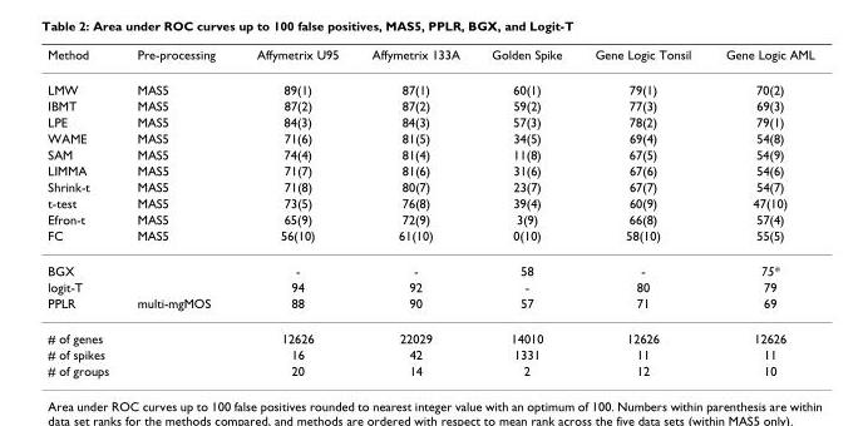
<table><thead><tr><td>Method</td><td>Pre-processing</td><td>Affymetrix U95</td><td>Affymetrix 133A</td><td>Golden Spike</td><td>Gene Logic Tonsil</td><td>Gene Logic AML</td></tr></thead><tbody><tr><td>LMW</td><td>MAS5</td><td>89(1)</td><td>87(1)</td><td>60(1)</td><td>79(1)</td><td>70(2)</td></tr><tr><td>IBMT</td><td>MAS5</td><td>87(2)</td><td>87(2)</td><td>59(2)</td><td>77(3)</td><td>69(3)</td></tr><tr><td>LPE</td><td>MAS5</td><td>84(3)</td><td>84(3)</td><td>57(3)</td><td>78(2)</td><td>79(1)</td></tr><tr><td>WAME</td><td>MAS5</td><td>71(6)</td><td>81(5)</td><td>34(5)</td><td>69(4)</td><td>54(8)</td></tr><tr><td>SAM</td><td>MAS5</td><td>74(4)</td><td>81(4)</td><td>11(8)</td><td>67(5)</td><td>54(9)</td></tr><tr><td>LIMMA</td><td>MAS5</td><td>71(7)</td><td>81(6)</td><td>31(6)</td><td>67(6)</td><td>54(6)</td></tr><tr><td>Shrink-t</td><td>MAS5</td><td>71(8)</td><td>80(7)</td><td>23(7)</td><td>67(7)</td><td>54(7)</td></tr><tr><td>t-test</td><td>MAS5</td><td>73(5)</td><td>76(8)</td><td>39(4)</td><td>60(9)</td><td>47(10)</td></tr><tr><td>Efron-t</td><td>MAS5</td><td>65(9)</td><td>72(9)</td><td>3(9)</td><td>66(8)</td><td>57(4)</td></tr><tr><td>FC</td><td>MAS5</td><td>56(10)</td><td>61(10)</td><td>0(10)</td><td>58(10)</td><td>55(5)</td></tr><tr><td>BGX</td><td></td><td>-</td><td>-</td><td>58</td><td>-</td><td>75*</td></tr><tr><td>logit-T</td><td></td><td>94</td><td>92</td><td>-</td><td>80</td><td>79</td></tr><tr><td>PPLR</td><td>multi-mgMOS</td><td>88</td><td>90</td><td>57</td><td>71</td><td>69</td></tr><tr><td># of genes</td><td></td><td>12626</td><td>22029</td><td>14010</td><td>12626</td><td>12626</td></tr><tr><td># of spikes</td><td></td><td>16</td><td>42</td><td>1331</td><td>11</td><td>11</td></tr><tr><td># of groups</td><td></td><td>20</td><td>14</td><td>2</td><td>12</td><td>10</td></tr></tbody></table>